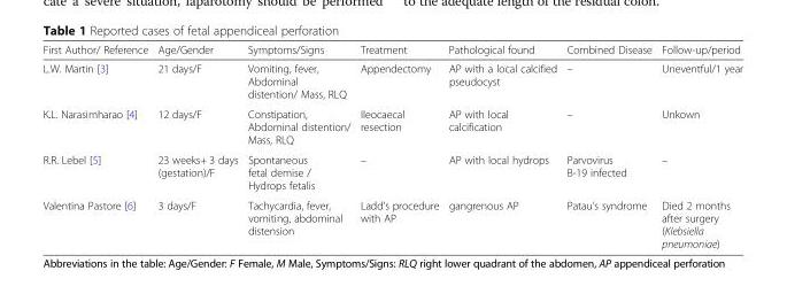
<table><thead><tr><td>First Author/ Reference</td><td>Age/Gender</td><td>Symptoms/Signs</td><td>Treatment</td><td>Pathological found</td><td>Combined Disease</td><td>Follow-up/period</td></tr></thead><tbody><tr><td>L.W. Martin [3]</td><td>21 days/F</td><td>Vomiting, fever, Abdominal distention/ Mass, RLQ</td><td>Appendectomy</td><td>AP with a local calcified pseudocyst</td><td>–</td><td>Uneventful/1 year</td></tr><tr><td>K.L. Narasimharao [4]</td><td>12 days/F</td><td>Constipation, Abdominal distention/ Mass, RLQ</td><td>Ileocaecal resection</td><td>AP with local calcification</td><td>–</td><td>Unkown</td></tr><tr><td>R.R. Lebel [5]</td><td>23 weeks+ 3 days (gestation)/F</td><td>Spontaneous fetal demise / Hydrops fetalis</td><td>–</td><td>AP with local hydrops</td><td>Parvovirus B-19 infected</td><td>–</td></tr><tr><td>Valentina Pastore [6]</td><td>3 days/F</td><td>Tachycardia, fever, vomiting, abdominal distension</td><td>Ladd’s procedure with AP</td><td>gangrenous AP</td><td>Patau’s syndrome</td><td>Died 2 months after surgery (Klebsiella pneumoniae)</td></tr></tbody></table>